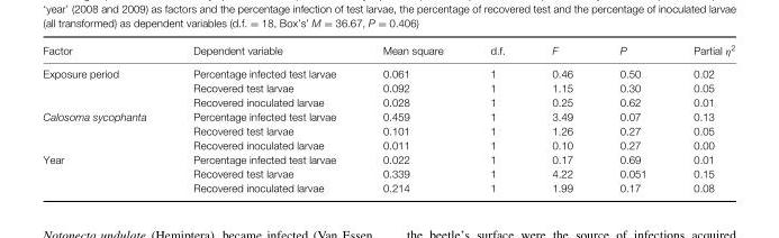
<table><thead><tr><td>Factor</td><td>Dependent variable</td><td>Mean square</td><td>d.f.</td><td>F</td><td>P</td><td>Partial η<sup>2</sup></td></tr></thead><tbody><tr><td rowspan="3">Exposure period</td><td>Percentage infected test larvae</td><td>0.061</td><td>1</td><td>0.46</td><td>0.50</td><td>0.02</td></tr><tr><td>Recovered test larvae</td><td>0.092</td><td>1</td><td>1.15</td><td>0.30</td><td>0.05</td></tr><tr><td>Recovered inoculated larvae</td><td>0.028</td><td>1</td><td>0.25</td><td>0.62</td><td>0.01</td></tr><tr><td rowspan="3">Calosoma sycophanta</td><td>Percentage infected test larvae</td><td>0.459</td><td>1</td><td>3.49</td><td>0.07</td><td>0.13</td></tr><tr><td>Recovered test larvae</td><td>0.101</td><td>1</td><td>1.26</td><td>0.27</td><td>0.05</td></tr><tr><td>Recovered inoculated larvae</td><td>0.011</td><td>1</td><td>0.10</td><td>0.27</td><td>0.00</td></tr><tr><td rowspan="3">Year</td><td>Percentage infected test larvae</td><td>0.022</td><td>1</td><td>0.17</td><td>0.69</td><td>0.01</td></tr><tr><td>Recovered test larvae</td><td>0.339</td><td>1</td><td>4.22</td><td>0.051</td><td>0.15</td></tr><tr><td>Recovered inoculated larvae</td><td>0.214</td><td>1</td><td>1.99</td><td>0.17</td><td>0.08</td></tr></tbody></table>